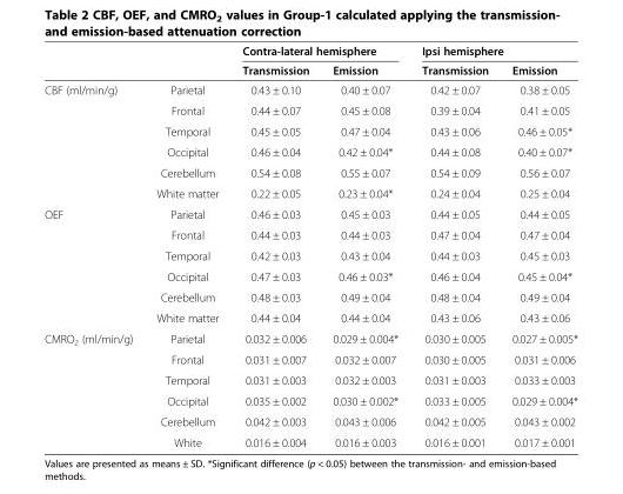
<table><thead><tr><td rowspan="2"></td><td rowspan="2"></td><td colspan="2">Contra-lateral hemisphere</td><td colspan="2">Ipsi hemisphere</td></tr><tr><td>Transmission</td><td>Emission</td><td>Transmission</td><td>Emission</td></tr></thead><tbody><tr><td rowspan="6">CBF (ml/min/g)</td><td>Parietal</td><td>0.43 ± 0.10</td><td>0.40 ± 0.07</td><td>0.42 ± 0.07</td><td>0.38 ± 0.05</td></tr><tr><td>Frontal</td><td>0.44 ± 0.07</td><td>0.45 ± 0.08</td><td>0.39 ± 0.04</td><td>0.41 ± 0.05</td></tr><tr><td>Temporal</td><td>0.45 ± 0.05</td><td>0.47 ± 0.04</td><td>0.43 ± 0.06</td><td>0.46 ± 0.05*</td></tr><tr><td>Occipital</td><td>0.46 ± 0.04</td><td>0.42 ± 0.04*</td><td>0.44 ± 0.08</td><td>0.40 ± 0.07*</td></tr><tr><td>Cerebellum</td><td>0.54 ± 0.08</td><td>0.55 ± 0.07</td><td>0.54 ± 0.09</td><td>0.56 ± 0.07</td></tr><tr><td>White matter</td><td>0.22 ± 0.05</td><td>0.23 ± 0.04*</td><td>0.24 ± 0.04</td><td>0.25 ± 0.04</td></tr><tr><td rowspan="6">OEF</td><td>Parietal</td><td>0.46 ± 0.03</td><td>0.45 ± 0.03</td><td>0.44 ± 0.05</td><td>0.44 ± 0.05</td></tr><tr><td>Frontal</td><td>0.44 ± 0.03</td><td>0.44 ± 0.03</td><td>0.47 ± 0.04</td><td>0.47 ± 0.04</td></tr><tr><td>Temporal</td><td>0.42 ± 0.03</td><td>0.43 ± 0.04</td><td>0.44 ± 0.03</td><td>0.45 ± 0.03</td></tr><tr><td>Occipital</td><td>0.47 ± 0.03</td><td>0.46 ± 0.03*</td><td>0.46 ± 0.04</td><td>0.45 ± 0.04*</td></tr><tr><td>Cerebellum</td><td>0.48 ± 0.03</td><td>0.49 ± 0.04</td><td>0.48 ± 0.04</td><td>0.49 ± 0.04</td></tr><tr><td>White matter</td><td>0.44 ± 0.04</td><td>0.44 ± 0.04</td><td>0.43 ± 0.06</td><td>0.43 ± 0.06</td></tr><tr><td rowspan="6">CMRO<sub>2</sub> (ml/min/g)</td><td>Parietal</td><td>0.032 ± 0.006</td><td>0.029 ± 0.004*</td><td>0.030 ± 0.005</td><td>0.027 ± 0.005*</td></tr><tr><td>Frontal</td><td>0.031 ± 0.007</td><td>0.032 ± 0.007</td><td>0.030 ± 0.005</td><td>0.031 ± 0.006</td></tr><tr><td>Temporal</td><td>0.031 ± 0.003</td><td>0.032 ± 0.003</td><td>0.031 ± 0.003</td><td>0.033 ± 0.003</td></tr><tr><td>Occipital</td><td>0.035 ± 0.002</td><td>0.030 ± 0.002*</td><td>0.033 ± 0.005</td><td>0.029 ± 0.004*</td></tr><tr><td>Cerebellum</td><td>0.042 ± 0.003</td><td>0.043 ± 0.006</td><td>0.042 ± 0.005</td><td>0.043 ± 0.002</td></tr><tr><td>White</td><td>0.016 ± 0.004</td><td>0.016 ± 0.003</td><td>0.016 ± 0.001</td><td>0.017 ± 0.001</td></tr></tbody></table>